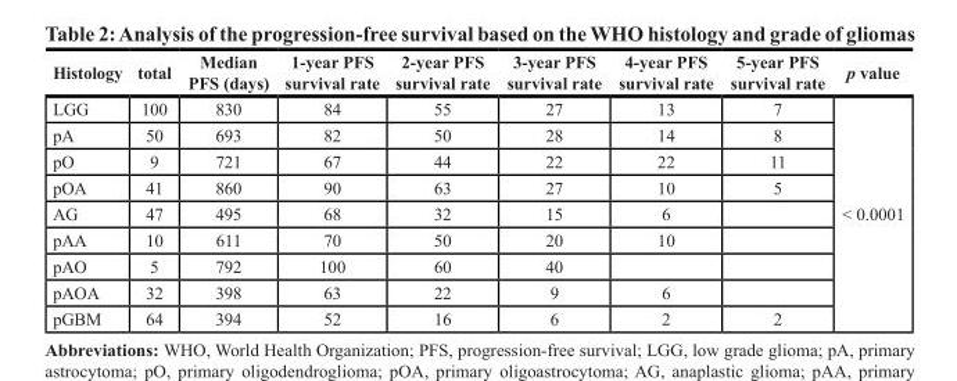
<table><thead><tr><td>Histology</td><td>total</td><td>Median PFS (days)</td><td>1-year PFS survival rate</td><td>2-year PFS survival rate</td><td>3-year PFS survival rate</td><td>4-year PFS survival rate</td><td>5-year PFS survival rate</td><td>p value</td></tr></thead><tbody><tr><td>LGG</td><td>100</td><td>830</td><td>84</td><td>55</td><td>27</td><td>13</td><td>7</td><td rowspan="9">&lt; 0.0001</td></tr><tr><td>pA</td><td>50</td><td>693</td><td>82</td><td>50</td><td>28</td><td>14</td><td>8</td></tr><tr><td>pO</td><td>9</td><td>721</td><td>67</td><td>44</td><td>22</td><td>22</td><td>11</td></tr><tr><td>pOA</td><td>41</td><td>860</td><td>90</td><td>63</td><td>27</td><td>10</td><td>5</td></tr><tr><td>AG</td><td>47</td><td>495</td><td>68</td><td>32</td><td>15</td><td>6</td><td></td></tr><tr><td>pAA</td><td>10</td><td>611</td><td>70</td><td>50</td><td>20</td><td>10</td><td></td></tr><tr><td>pAO</td><td>5</td><td>792</td><td>100</td><td>60</td><td>40</td><td></td><td></td></tr><tr><td>pAOA</td><td>32</td><td>398</td><td>63</td><td>22</td><td>9</td><td>6</td><td></td></tr><tr><td>pGBM</td><td>64</td><td>394</td><td>52</td><td>16</td><td>6</td><td>2</td><td>2</td></tr></tbody></table>